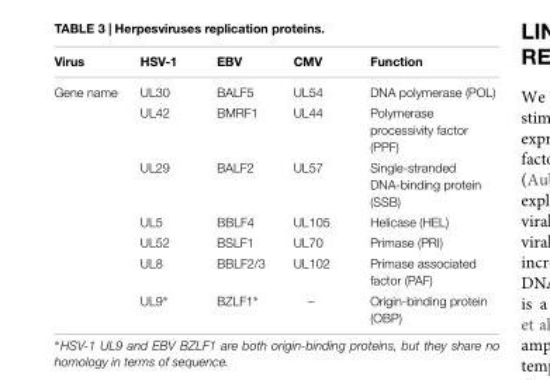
<table><thead><tr><td>Virus</td><td>HSV-1</td><td>EBV</td><td>CMV</td><td>Function</td></tr></thead><tbody><tr><td rowspan="7">Gene name</td><td>UL30</td><td>BALF5</td><td>UL54</td><td>DNA polymerase (POL)</td></tr><tr><td>UL42</td><td>BMRF1</td><td>UL44</td><td>Polymerase processivity factor (PPF)</td></tr><tr><td>UL29</td><td>BALF2</td><td>UL57</td><td>Single-stranded DNA-binding protein (SSB)</td></tr><tr><td>UL5</td><td>BBLF4</td><td>UL105</td><td>Helicase (HEL)</td></tr><tr><td>UL52</td><td>BSLF1</td><td>UL70</td><td>Primase (PRI)</td></tr><tr><td>UL8</td><td>BBLF2/3</td><td>UL102</td><td>Primase associated factor (PAF)</td></tr><tr><td>UL9∗</td><td>BZLF1∗</td><td>–</td><td>Origin-binding protein (OBP)</td></tr></tbody></table>